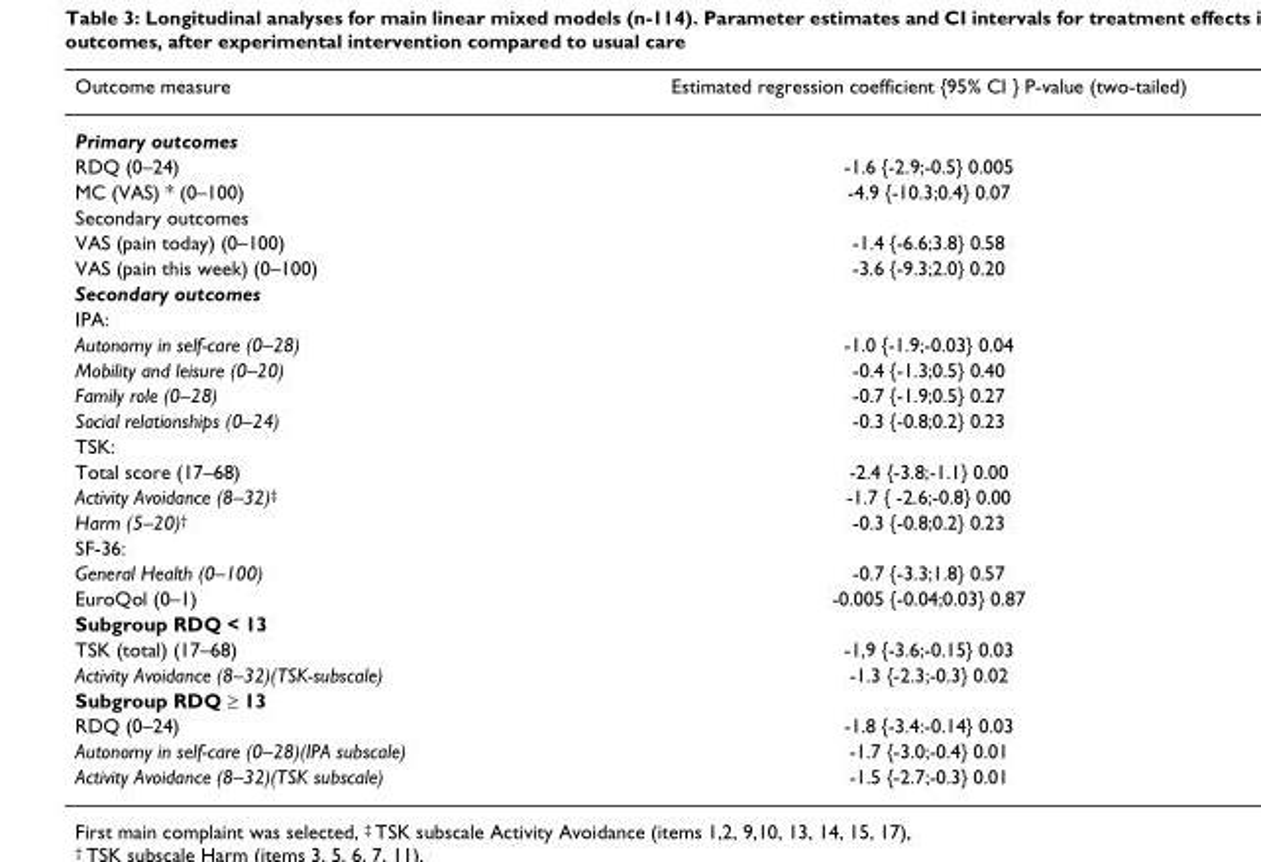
<table><thead><tr><td>Outcome measure</td><td>Estimated regression coefficient {95% CI } P-value (two-tailed)</td></tr></thead><tbody><tr><td colspan="2">Primary outcomes</td></tr><tr><td>RDQ (0–24)</td><td>-1.6 {-2.9;-0.5} 0.005</td></tr><tr><td>MC (VAS) * (0–100)</td><td>-4.9 {-10.3;0.4} 0.07</td></tr><tr><td colspan="2">Secondary outcomes</td></tr><tr><td>VAS (pain today) (0–100)</td><td>-1.4 {-6.6;3.8} 0.58</td></tr><tr><td>VAS (pain this week) (0–100)</td><td>-3.6 {-9.3;2.0} 0.20</td></tr><tr><td colspan="2">Secondary outcomes</td></tr><tr><td colspan="2">IPA:</td></tr><tr><td>Autonomy in self-care (0–28)</td><td>-1.0 {-1.9;-0.03} 0.04</td></tr><tr><td>Mobility and leisure (0–20)</td><td>-0.4 {-1.3;0.5} 0.40</td></tr><tr><td>Family role (0–28)</td><td>-0.7 {-1.9;0.5} 0.27</td></tr><tr><td>Social relationships (0–24)</td><td>-0.3 {-0.8;0.2} 0.23</td></tr><tr><td colspan="2">TSK:</td></tr><tr><td>Total score (17–68)</td><td>-2.4 {-3.8;-1.1} 0.00</td></tr><tr><td>Activity Avoidance (8–32)<sup>‡</sup></td><td>-1.7 { -2.6;-0.8} 0.00</td></tr><tr><td>Harm (5–20)<sup>†</sup></td><td>-0.3 {-0.8;0.2} 0.23</td></tr><tr><td colspan="2">SF-36:</td></tr><tr><td>General Health (0–100)</td><td>-0.7 {-3.3;1.8} 0.57</td></tr><tr><td>EuroQol (0–1)</td><td>-0.005 {-0.04;0.03} 0.87</td></tr><tr><td colspan="2">Subgroup RDQ &lt; 13</td></tr><tr><td>TSK (total) (17–68)</td><td>-1,9 {-3.6;-0.15} 0.03</td></tr><tr><td>Activity Avoidance (8–32)(TSK-subscale)</td><td>-1.3 {-2.3;-0.3} 0.02</td></tr><tr><td colspan="2">Subgroup RDQ ≥ 13</td></tr><tr><td>RDQ (0–24)</td><td>-1.8 {-3.4:-0.14} 0.03</td></tr><tr><td>Autonomy in self-care (0–28)(IPA subscale)</td><td>-1.7 {-3.0;-0.4} 0.01</td></tr><tr><td>Activity Avoidance (8–32)(TSK subscale)</td><td>-1.5 {-2.7;-0.3} 0.01</td></tr></tbody></table>